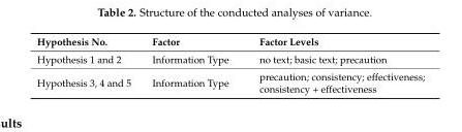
<table><thead><tr><td>Hypothesis No.</td><td>Factor</td><td>Factor Levels</td></tr></thead><tbody><tr><td>Hypothesis 1 and 2</td><td>Information Type</td><td>no text; basic text; precaution</td></tr><tr><td>Hypothesis 3, 4 and 5</td><td>Information Type</td><td>precaution; consistency; effectiveness; consistency + effectiveness</td></tr></tbody></table>